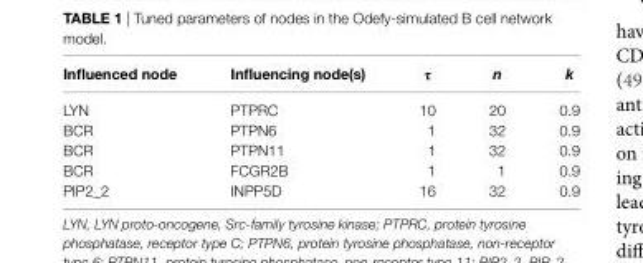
<table><thead><tr><td>influenced node</td><td>influencing node(s)</td><td>τ</td><td>n</td><td>k</td></tr></thead><tbody><tr><td>LYN</td><td>PTPRC</td><td>10</td><td>20</td><td>0.9</td></tr><tr><td>BCR</td><td>PTPN6</td><td>1</td><td>32</td><td>0.9</td></tr><tr><td>BCR</td><td>PTPN11</td><td>1</td><td>32</td><td>0.9</td></tr><tr><td>BCR</td><td>FCGR2B</td><td>1</td><td>1</td><td>0.9</td></tr><tr><td>PIP2_2</td><td>INPP5D</td><td>16</td><td>32</td><td>0.9</td></tr></tbody></table>